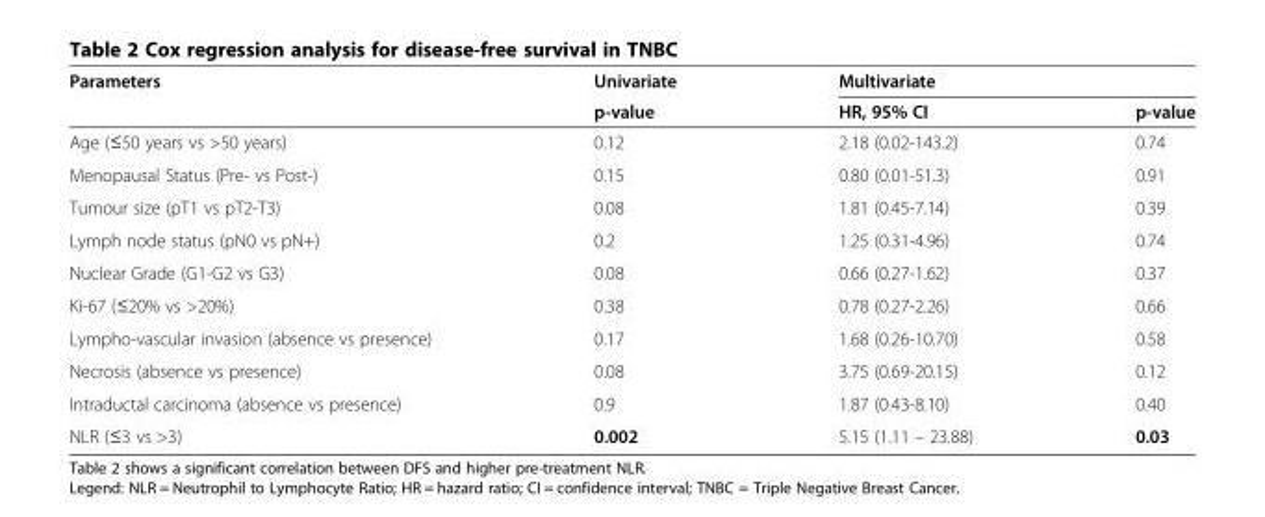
<table><thead><tr><td rowspan="2">Parameters</td><td rowspan="2">Univariate p-value</td><td colspan="2">Multivariate</td></tr><tr><td>HR, 95% CI</td><td>p-value</td></tr></thead><tbody><tr><td>Age (≤50 years vs &gt;50 years)</td><td>0.12</td><td>2.18 (0.02-143.2)</td><td>0.74</td></tr><tr><td>Menopausal Status (Pre- vs Post-)</td><td>0.15</td><td>0.80 (0.01-51.3)</td><td>0.91</td></tr><tr><td>Tumour size (pT1 vs pT2-T3)</td><td>0.08</td><td>1.81 (0.45-7.14)</td><td>0.39</td></tr><tr><td>Lymph node status (pN0 vs pN+)</td><td>0.2</td><td>1.25 (0.31-4.96)</td><td>0.74</td></tr><tr><td>Nuclear Grade (G1-G2 vs G3)</td><td>0.08</td><td>0.66 (0.27-1.62)</td><td>0.37</td></tr><tr><td>Ki-67 (≤20% vs &gt;20%)</td><td>0.38</td><td>0.78 (0.27-2.26)</td><td>0.66</td></tr><tr><td>Lympho-vascular invasion (absence vs presence)</td><td>0.17</td><td>1.68 (0.26-10.70)</td><td>0.58</td></tr><tr><td>Necrosis (absence vs presence)</td><td>0.08</td><td>3.75 (0.69-20.15)</td><td>0.12</td></tr><tr><td>Intraductal carcinoma (absence vs presence)</td><td>0.9</td><td>1.87 (0.43-8.10)</td><td>0.40</td></tr><tr><td>NLR (≤3 vs &gt;3)</td><td>0.002</td><td>5.15 (1.11 – 23.88)</td><td>0.03</td></tr></tbody></table>